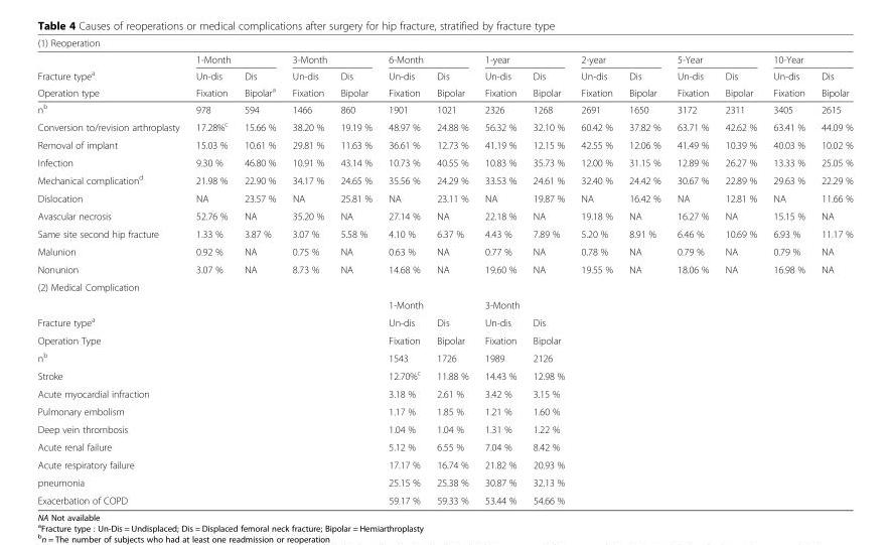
<table><thead><tr><td colspan="15">(1) Reoperation</td></tr><tr><td rowspan="3">Fracture typea Operation type</td><td colspan="2">1-Month</td><td colspan="2">3-Month</td><td colspan="2">6-Month</td><td colspan="2">1-year</td><td colspan="2">2-year</td><td colspan="2">5-Year</td><td colspan="2">10-Year</td></tr><tr><td rowspan="2">Un-dis Fixation</td><td rowspan="2">Dis Bipolar<sup>a</sup></td><td rowspan="2">Un-dis Fixation</td><td rowspan="2">Dis Bipolar</td><td rowspan="2">Un-dis Fixation</td><td rowspan="2">Dis Bipolar</td><td rowspan="2">Un-dis Fixation</td><td rowspan="2">Dis Bipolar</td><td rowspan="2">Un-dis Fixation</td><td rowspan="2">Dis Bipolar</td><td rowspan="2">Un-dis Fixation</td><td rowspan="2">Dis Bipolar</td><td rowspan="2">Un-dis Fixation</td><td rowspan="2">Dis Bipolar</td></tr><tr></tr></thead><tbody><tr><td>n<sup>b</sup></td><td>978</td><td>594</td><td>1466</td><td>860</td><td>1901</td><td>1021</td><td>2326</td><td>1268</td><td>2691</td><td>1650</td><td>3172</td><td>2311</td><td>3405</td><td>2615</td></tr><tr><td>Conversion to/revision arthroplasty</td><td>17.28%<sup>c</sup></td><td>15.66 %</td><td>38.20 %</td><td>19.19 %</td><td>48.97 %</td><td>24.88 %</td><td>56.32 %</td><td>32.10 %</td><td>60.42 %</td><td>37.82 %</td><td>63.71 %</td><td>42.62 %</td><td>63.41 %</td><td>44.09 %</td></tr><tr><td>Removal of implant</td><td>15.03 %</td><td>10.61 %</td><td>29.81 %</td><td>11.63 %</td><td>36.61 %</td><td>12.73 %</td><td>41.19 %</td><td>12.15 %</td><td>42.55 %</td><td>12.06 %</td><td>41.49 %</td><td>10.39 %</td><td>40.03 %</td><td>10.02 %</td></tr><tr><td>Infection</td><td>9.30 %</td><td>46.80 %</td><td>10.91 %</td><td>43.14 %</td><td>10.73 %</td><td>40.55 %</td><td>10.83 %</td><td>35.73 %</td><td>12.00 %</td><td>31.15 %</td><td>12.89 %</td><td>26.27 %</td><td>13.33 %</td><td>25.05 %</td></tr><tr><td>Mechanical complication<sup>d</sup></td><td>21.98 %</td><td>22.90 %</td><td>34.17 %</td><td>24.65 %</td><td>35.56 %</td><td>24.29 %</td><td>33.53 %</td><td>24.61 %</td><td>32.40 %</td><td>24.42 %</td><td>30.67 %</td><td>22.89 %</td><td>29.63 %</td><td>22.29 %</td></tr><tr><td>Dislocation</td><td>NA</td><td>23.57 %</td><td>NA</td><td>25.81 %</td><td>NA</td><td>23.11 %</td><td>NA</td><td>19.87 %</td><td>NA</td><td>16.42 %</td><td>NA</td><td>12.81 %</td><td>NA</td><td>11.66 %</td></tr><tr><td>Avascular necrosis</td><td>52.76 %</td><td>NA</td><td>35.20 %</td><td>NA</td><td>27.14 %</td><td>NA</td><td>22.18 %</td><td>NA</td><td>19.18 %</td><td>NA</td><td>16.27 %</td><td>NA</td><td>15.15 %</td><td>NA</td></tr><tr><td>Same site second hip fracture</td><td>1.33 %</td><td>3.87 %</td><td>3.07 %</td><td>5.58 %</td><td>4.10 %</td><td>6.37 %</td><td>4.43 %</td><td>7.89 %</td><td>5.20 %</td><td>8.91 %</td><td>6.46 %</td><td>10.69 %</td><td>6.93 %</td><td>11.17 %</td></tr><tr><td>Malunion</td><td>0.92 %</td><td>NA</td><td>0.75 %</td><td>NA</td><td>0.63 %</td><td>NA</td><td>0.77 %</td><td>NA</td><td>0.78 %</td><td>NA</td><td>0.79 %</td><td>NA</td><td>0.79 %</td><td>NA</td></tr><tr><td>Nonunion</td><td>3.07 %</td><td>NA</td><td>8.73 %</td><td>NA</td><td>14.68 %</td><td>NA</td><td>19.60 %</td><td>NA</td><td>19.55 %</td><td>NA</td><td>18.06 %</td><td>NA</td><td>16.98 %</td><td>NA</td></tr><tr><td colspan="15">(2) Medical Complication</td></tr><tr><td colspan="5"></td><td colspan="2">1-Month</td><td colspan="2">3-Month</td><td></td><td></td><td></td><td></td><td></td><td></td></tr><tr><td colspan="5">Fracture type<sup>a</sup></td><td>Un-dis</td><td>Dis</td><td>Un-dis</td><td>Dis</td><td></td><td></td><td></td><td></td><td></td><td></td></tr><tr><td colspan="5">Operation Type</td><td>Fixation</td><td>Bipolar</td><td>Fixation</td><td>Bipolar</td><td></td><td></td><td></td><td></td><td></td><td></td></tr><tr><td colspan="5">n<sup>b</sup></td><td>1543</td><td>1726</td><td>1989</td><td>2126</td><td></td><td></td><td></td><td></td><td></td><td></td></tr><tr><td colspan="5">Stroke</td><td>12.70%<sup>c</sup></td><td>11.88 %</td><td>14.43 %</td><td>12.98 %</td><td></td><td></td><td></td><td></td><td></td><td></td></tr><tr><td colspan="5">Acute myocardial infraction</td><td>3.18 %</td><td>2.61 %</td><td>3.42 %</td><td>3.15 %</td><td></td><td></td><td></td><td></td><td></td><td></td></tr><tr><td colspan="5">Pulmonary embolism</td><td>1.17 %</td><td>1.85 %</td><td>1.21 %</td><td>1.60 %</td><td></td><td></td><td></td><td></td><td></td><td></td></tr><tr><td colspan="5">Deep vein thrombosis</td><td>1.04 %</td><td>1.04 %</td><td>1.31 %</td><td>1.22 %</td><td></td><td></td><td></td><td></td><td></td><td></td></tr><tr><td colspan="5">Acute renal failure</td><td>5.12 %</td><td>6.55 %</td><td>7.04 %</td><td>8.42 %</td><td></td><td></td><td></td><td></td><td></td><td></td></tr><tr><td colspan="5">Acute respiratory failure</td><td>17.17 %</td><td>16.74 %</td><td>21.82 %</td><td>20.93 %</td><td></td><td></td><td></td><td></td><td></td><td></td></tr><tr><td colspan="5">pneumonia</td><td>25.15 %</td><td>25.38 %</td><td>30.87 %</td><td>32.13 %</td><td></td><td></td><td></td><td></td><td></td><td></td></tr><tr><td colspan="5">Exacerbation of COPD</td><td>59.17 %</td><td>59.33 %</td><td>53.44 %</td><td>54.66 %</td><td></td><td></td><td></td><td></td><td></td><td></td></tr></tbody></table>